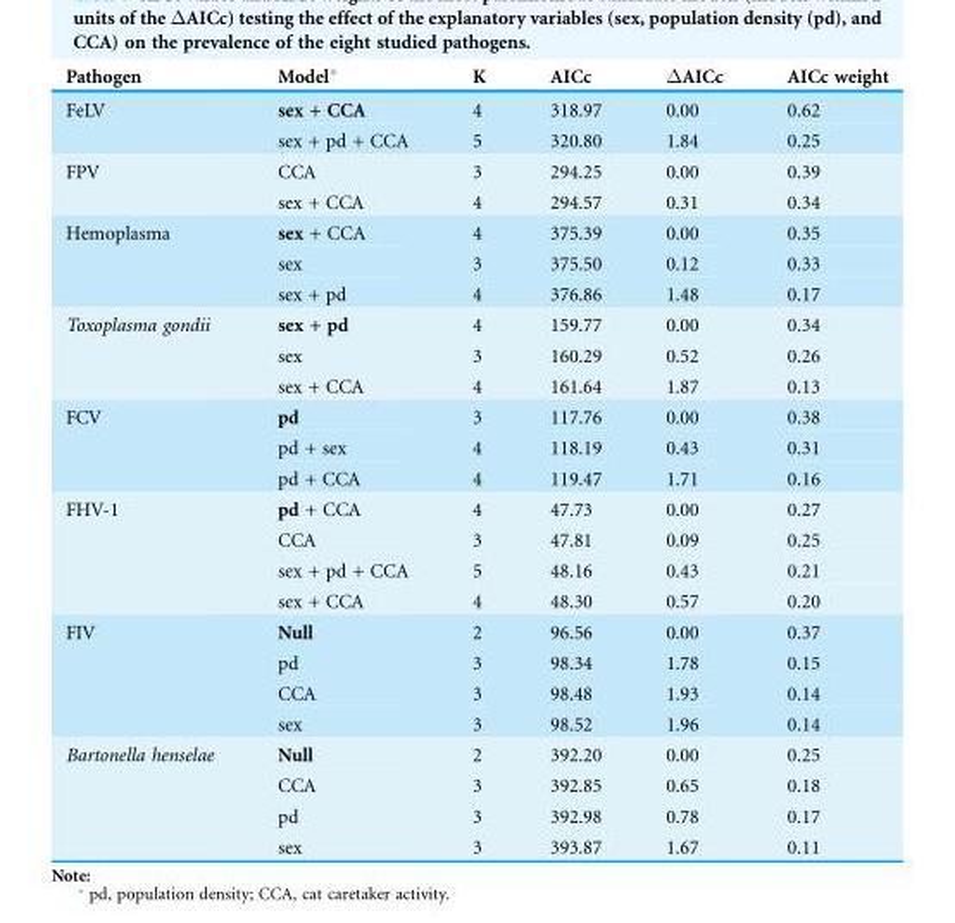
<table><thead><tr><td>Pathogen</td><td>Model*</td><td>K</td><td>AICc</td><td>ΔAICc</td><td>AICc weight</td></tr></thead><tbody><tr><td rowspan="2">FeLV</td><td>sex + CCA</td><td>4</td><td>318.97</td><td>0.00</td><td>0.62</td></tr><tr><td>sex + pd + CCA</td><td>5</td><td>320.80</td><td>1.84</td><td>0.25</td></tr><tr><td rowspan="2">FPV</td><td>CCA</td><td>3</td><td>294.25</td><td>0.00</td><td>0.39</td></tr><tr><td>sex + CCA</td><td>4</td><td>294.57</td><td>0.31</td><td>0.34</td></tr><tr><td rowspan="3">Hemoplasma</td><td>sex + CCA</td><td>4</td><td>375.39</td><td>0.00</td><td>0.35</td></tr><tr><td>sex</td><td>3</td><td>375.50</td><td>0.12</td><td>0.33</td></tr><tr><td>sex + pd</td><td>4</td><td>376.86</td><td>1.48</td><td>0.17</td></tr><tr><td rowspan="3">Toxoplasma gondii</td><td>sex + pd</td><td>4</td><td>159.77</td><td>0.00</td><td>0.34</td></tr><tr><td>sex</td><td>3</td><td>160.29</td><td>0.52</td><td>0.26</td></tr><tr><td>sex + CCA</td><td>4</td><td>161.64</td><td>1.87</td><td>0.13</td></tr><tr><td rowspan="3">FCV</td><td>pd</td><td>3</td><td>117.76</td><td>0.00</td><td>0.38</td></tr><tr><td>pd + sex</td><td>4</td><td>118.19</td><td>0.43</td><td>0.31</td></tr><tr><td>pd + CCA</td><td>4</td><td>119.47</td><td>1.71</td><td>0.16</td></tr><tr><td rowspan="4">FHV-1</td><td>pd + CCA</td><td>4</td><td>47.73</td><td>0.00</td><td>0.27</td></tr><tr><td>CCA</td><td>3</td><td>47.81</td><td>0.09</td><td>0.25</td></tr><tr><td>sex + pd + CCA</td><td>5</td><td>48.16</td><td>0.43</td><td>0.21</td></tr><tr><td>sex + CCA</td><td>4</td><td>48.30</td><td>0.57</td><td>0.20</td></tr><tr><td rowspan="4">FIV</td><td>Null</td><td>2</td><td>96.56</td><td>0.00</td><td>0.37</td></tr><tr><td>pd</td><td>3</td><td>98.34</td><td>1.78</td><td>0.15</td></tr><tr><td>CCA</td><td>3</td><td>98.48</td><td>1.93</td><td>0.14</td></tr><tr><td>sex</td><td>3</td><td>98.52</td><td>1.96</td><td>0.14</td></tr><tr><td rowspan="4">Bartonella henselae</td><td>Null</td><td>2</td><td>392.20</td><td>0.00</td><td>0.25</td></tr><tr><td>CCA</td><td>3</td><td>392.85</td><td>0.65</td><td>0.18</td></tr><tr><td>pd</td><td>3</td><td>392.98</td><td>0.78</td><td>0.17</td></tr><tr><td>sex</td><td>3</td><td>393.87</td><td>1.67</td><td>0.11</td></tr></tbody></table>